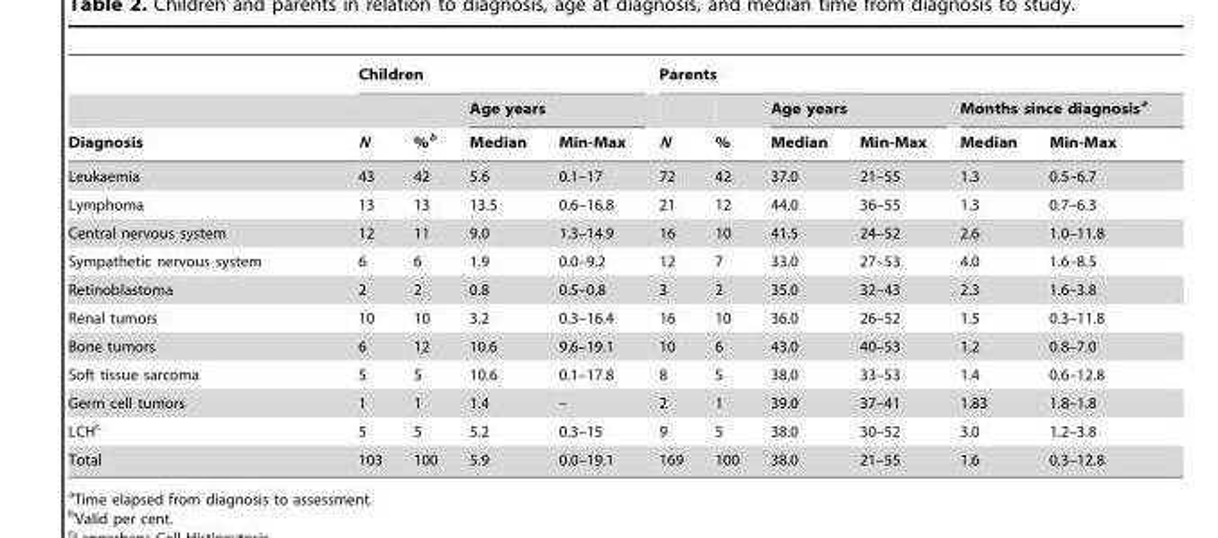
<table><thead><tr><td rowspan="3">Diagnosis</td><td colspan="4">Children</td><td colspan="6">Parents</td></tr><tr><td rowspan="2">N</td><td rowspan="2">%<sup>b</sup></td><td colspan="2">Age years</td><td rowspan="2">N</td><td rowspan="2">%</td><td colspan="2">Age years</td><td colspan="2">Months since diagnosis<sup>a</sup></td></tr><tr><td>Median</td><td>Min-Max</td><td>Median</td><td>Min-Max</td><td>Median</td><td>Min-Max</td></tr></thead><tbody><tr><td>Leukaemia</td><td>43</td><td>42</td><td>5.6</td><td>0.1–17</td><td>72</td><td>42</td><td>37.0</td><td>21–55</td><td>1.3</td><td>0.5–6.7</td></tr><tr><td>Lymphoma</td><td>13</td><td>13</td><td>13.5</td><td>0.6–16.8</td><td>21</td><td>12</td><td>44.0</td><td>36–55</td><td>1.3</td><td>0.7–6.3</td></tr><tr><td>Central nervous system</td><td>12</td><td>11</td><td>9.0</td><td>1.3–14.9</td><td>16</td><td>10</td><td>41.5</td><td>24–52</td><td>2.6</td><td>1.0–11.8</td></tr><tr><td>Sympathetic nervous system</td><td>6</td><td>6</td><td>1.9</td><td>0.0–9.2</td><td>12</td><td>7</td><td>33.0</td><td>27–53</td><td>4.0</td><td>1.6–8.5</td></tr><tr><td>Retinoblastoma</td><td>2</td><td>2</td><td>0.8</td><td>0.5–0.8</td><td>3</td><td>2</td><td>35.0</td><td>32–43</td><td>2.3</td><td>1.6–3.8</td></tr><tr><td>Renal tumors</td><td>10</td><td>10</td><td>3.2</td><td>0.3–16.4</td><td>16</td><td>10</td><td>36.0</td><td>26–52</td><td>1.5</td><td>0.3–11.8</td></tr><tr><td>Bone tumors</td><td>6</td><td>12</td><td>10.6</td><td>9.6–19.1</td><td>10</td><td>6</td><td>43.0</td><td>40–53</td><td>1.2</td><td>0.8–7.0</td></tr><tr><td>Soft tissue sarcoma</td><td>5</td><td>5</td><td>10.6</td><td>0.1–17.8</td><td>8</td><td>5</td><td>38.0</td><td>33–53</td><td>1.4</td><td>0.6–12.8</td></tr><tr><td>Germ cell tumors</td><td>1</td><td>1</td><td>1.4</td><td>–</td><td>2</td><td>1</td><td>39.0</td><td>37–41</td><td>1.83</td><td>1.8–1.8</td></tr><tr><td>LCH<sup>c</sup></td><td>5</td><td>5</td><td>5.2</td><td>0.3–15</td><td>9</td><td>5</td><td>38.0</td><td>30–52</td><td>3.0</td><td>1.2–3.8</td></tr><tr><td>Total</td><td>103</td><td>100</td><td>5.9</td><td>0.0–19.1</td><td>169</td><td>100</td><td>38.0</td><td>21–55</td><td>1.6</td><td>0.3–12.8</td></tr></tbody></table>